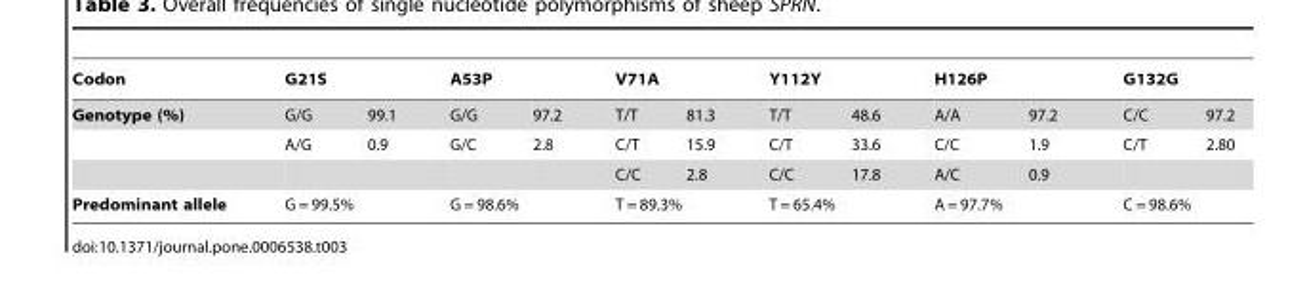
<table><thead><tr><td rowspan="2">Codon Genotype (%)</td><td colspan="2">G21S</td><td colspan="2">A53P</td><td colspan="2">V71A</td><td colspan="2">Y112Y</td><td colspan="2">H126P</td><td colspan="2">G132G</td></tr><tr><td>G/G</td><td>99.1</td><td>G/G</td><td>97.2</td><td>T/T</td><td>81.3</td><td>T/T</td><td>48.6</td><td>A/A</td><td>97.2</td><td>C/C</td><td>97.2</td></tr></thead><tbody><tr><td></td><td>A/G</td><td>0.9</td><td>G/C</td><td>2.8</td><td>C/T</td><td>15.9</td><td>C/T</td><td>33.6</td><td>C/C</td><td>1.9</td><td>C/T</td><td>2.80</td></tr><tr><td></td><td></td><td></td><td></td><td></td><td>C/C</td><td>2.8</td><td>C/C</td><td>17.8</td><td>A/C</td><td>0.9</td><td></td><td></td></tr><tr><td>Predominant allele</td><td colspan="2">G = 99.5%</td><td colspan="2">G = 98.6%</td><td colspan="2">T = 89.3%</td><td colspan="2">T = 65.4%</td><td colspan="2">A = 97.7%</td><td colspan="2">C = 98.6%</td></tr></tbody></table>